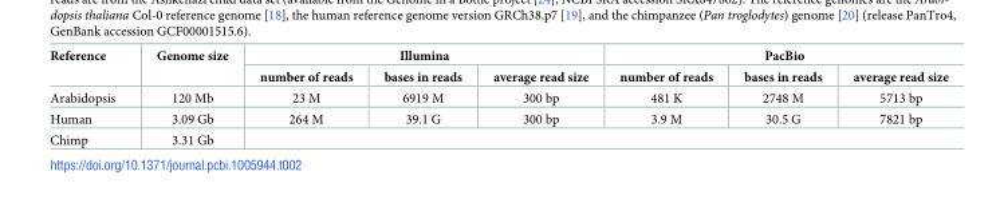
<table><thead><tr><td rowspan="2">Reference</td><td rowspan="2">Genome size</td><td colspan="3">Illumina</td><td colspan="3">PacBio</td></tr><tr><td>number of reads</td><td>bases in reads</td><td>average read size</td><td>number of reads</td><td>bases in reads</td><td>average read size</td></tr></thead><tbody><tr><td>Arabidopsis</td><td>120 Mb</td><td>23 M</td><td>6919 M</td><td>300 bp</td><td>481 K</td><td>2748 M</td><td>5713 bp</td></tr><tr><td>Human</td><td>3.09 Gb</td><td>264 M</td><td>39.1 G</td><td>300 bp</td><td>3.9 M</td><td>30.5 G</td><td>7821 bp</td></tr><tr><td>Chimp</td><td>3.31 Gb</td><td colspan="6"></td></tr></tbody></table>